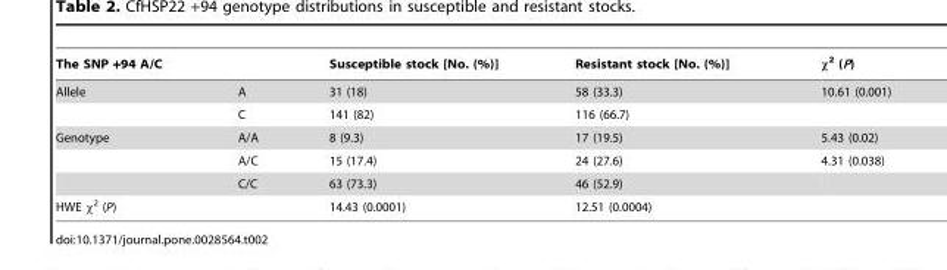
<table><thead><tr><td colspan="2">The SNP +94 A/C</td><td rowspan="2">Susceptible stock [No. (%)] 31 (18)</td><td rowspan="2">Resistant stock [No. (%)] 58 (33.3)</td><td rowspan="2">χ<sup>2</sup> (P) 10.61 (0.001)</td></tr><tr><td>Allele</td><td>A</td></tr></thead><tbody><tr><td></td><td>C</td><td>141 (82)</td><td>116 (66.7)</td><td></td></tr><tr><td rowspan="3">Genotype</td><td>A/A</td><td>8 (9.3)</td><td>17 (19.5)</td><td>5.43 (0.02)</td></tr><tr><td>A/C</td><td>15 (17.4)</td><td>24 (27.6)</td><td>4.31 (0.038)</td></tr><tr><td>C/C</td><td>63 (73.3)</td><td>46 (52.9)</td><td></td></tr><tr><td colspan="2">HWE χ<sup>2</sup> (P)</td><td>14.43 (0.0001)</td><td>12.51 (0.0004)</td><td></td></tr></tbody></table>